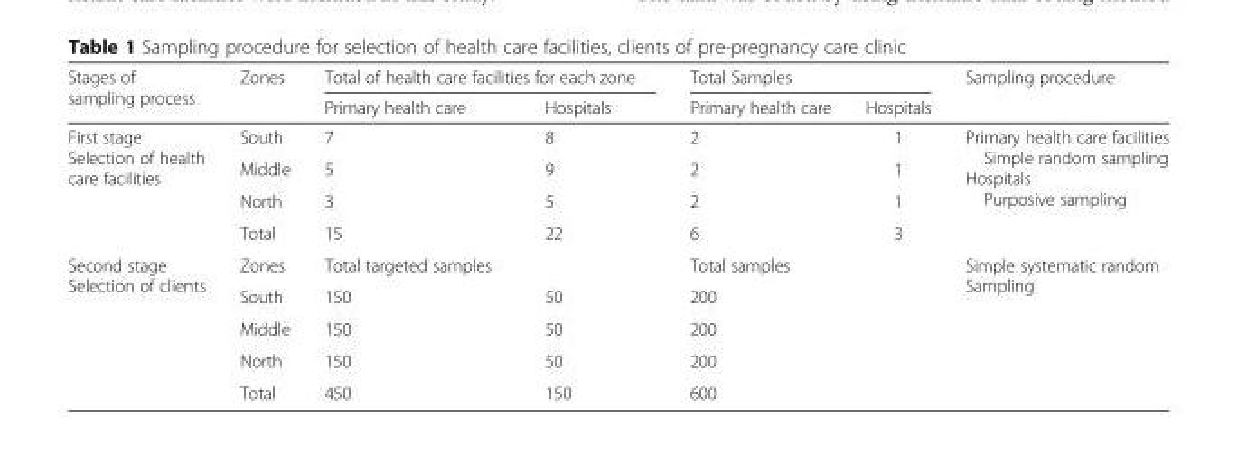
<table><thead><tr><td rowspan="2">Stages of sampling process</td><td rowspan="2">Zones</td><td colspan="2">Total of health care facilities for each zone</td><td colspan="2">Total Samples</td><td rowspan="2">Sampling procedure</td></tr><tr><td>Primary health care</td><td>Hospitals</td><td>Primary health care</td><td>Hospitals</td></tr></thead><tbody><tr><td rowspan="4">First stage Selection of health care facilities</td><td>South</td><td>7</td><td>8</td><td>2</td><td>1</td><td rowspan="4">Primary health care facilities Simple random sampling Hospitals Purposive sampling</td></tr><tr><td>Middle</td><td>5</td><td>9</td><td>2</td><td>1</td></tr><tr><td>North</td><td>3</td><td>5</td><td>2</td><td>1</td></tr><tr><td>Total</td><td>15</td><td>22</td><td>6</td><td>3</td></tr><tr><td rowspan="5">Second stage Selection of clients</td><td>Zones</td><td colspan="2">Total targeted samples</td><td>Total samples</td><td></td><td rowspan="5">Simple systematic random Sampling</td></tr><tr><td>South</td><td>150</td><td>50</td><td>200</td><td></td></tr><tr><td>Middle</td><td>150</td><td>50</td><td>200</td><td></td></tr><tr><td>North</td><td>150</td><td>50</td><td>200</td><td></td></tr><tr><td>Total</td><td>450</td><td>150</td><td>600</td><td></td></tr></tbody></table>